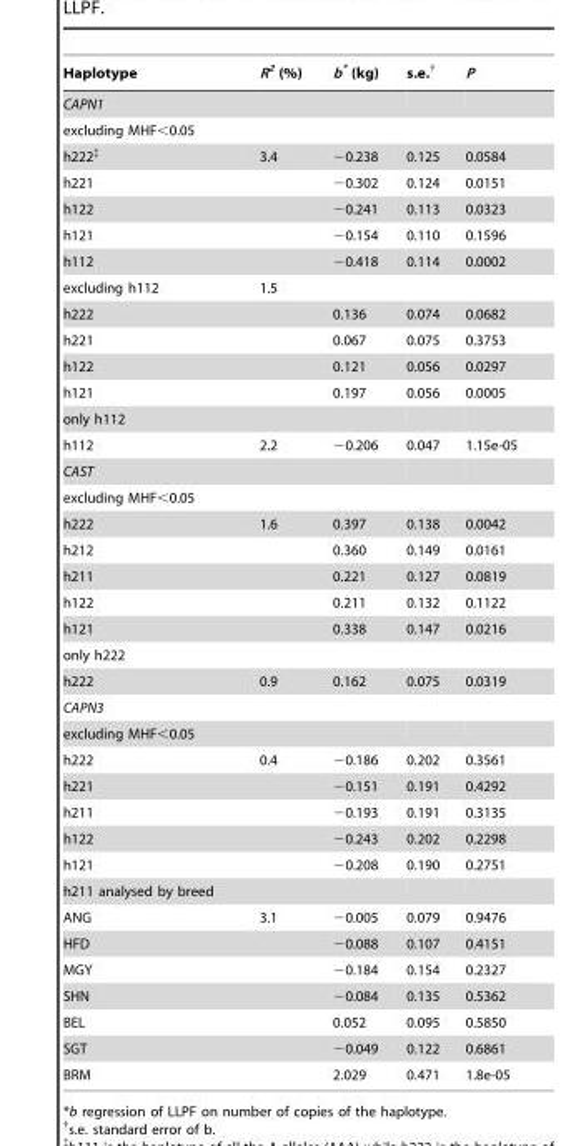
<table><thead><tr><td>Haplotype</td><td>R<sup>2</sup> (%)</td><td>b* (kg)</td><td>s.e.†</td><td>P</td></tr></thead><tbody><tr><td colspan="5">CAPN1</td></tr><tr><td colspan="5">excluding MHF&lt;0.05</td></tr><tr><td>h222‡</td><td>3.4</td><td>−0.238</td><td>0.125</td><td>0.0584</td></tr><tr><td>h221</td><td></td><td>−0.302</td><td>0.124</td><td>0.0151</td></tr><tr><td>h122</td><td></td><td>−0.241</td><td>0.113</td><td>0.0323</td></tr><tr><td>h121</td><td></td><td>−0.154</td><td>0.110</td><td>0.1596</td></tr><tr><td>h112</td><td></td><td>−0.418</td><td>0.114</td><td>0.0002</td></tr><tr><td>excluding h112</td><td>1.5</td><td></td><td></td><td></td></tr><tr><td>h222</td><td></td><td>0.136</td><td>0.074</td><td>0.0682</td></tr><tr><td>h221</td><td></td><td>0.067</td><td>0.075</td><td>0.3753</td></tr><tr><td>h122</td><td></td><td>0.121</td><td>0.056</td><td>0.0297</td></tr><tr><td>h121</td><td></td><td>0.197</td><td>0.056</td><td>0.0005</td></tr><tr><td colspan="5">only h112</td></tr><tr><td>h112</td><td>2.2</td><td>−0.206</td><td>0.047</td><td>1.15e-05</td></tr><tr><td colspan="5">CAST</td></tr><tr><td colspan="5">excluding MHF&lt;0.05</td></tr><tr><td>h222</td><td>1.6</td><td>0.397</td><td>0.138</td><td>0.0042</td></tr><tr><td>h212</td><td></td><td>0.360</td><td>0.149</td><td>0.0161</td></tr><tr><td>h211</td><td></td><td>0.221</td><td>0.127</td><td>0.0819</td></tr><tr><td>h122</td><td></td><td>0.211</td><td>0.132</td><td>0.1122</td></tr><tr><td>h121</td><td></td><td>0.338</td><td>0.147</td><td>0.0216</td></tr><tr><td colspan="5">only h222</td></tr><tr><td>h222</td><td>0.9</td><td>0.162</td><td>0.075</td><td>0.0319</td></tr><tr><td colspan="5">CAPN3</td></tr><tr><td colspan="5">excluding MHF&lt;0.05</td></tr><tr><td>h222</td><td>0.4</td><td>−0.186</td><td>0.202</td><td>0.3561</td></tr><tr><td>h221</td><td></td><td>−0.151</td><td>0.191</td><td>0.4292</td></tr><tr><td>h211</td><td></td><td>−0.193</td><td>0.191</td><td>0.3135</td></tr><tr><td>h122</td><td></td><td>−0.243</td><td>0.202</td><td>0.2298</td></tr><tr><td>h121</td><td></td><td>−0.208</td><td>0.190</td><td>0.2751</td></tr><tr><td colspan="5">h211 analysed by breed</td></tr><tr><td>ANG</td><td>3.1</td><td>−0.005</td><td>0.079</td><td>0.9476</td></tr><tr><td>HFD</td><td></td><td>−0.088</td><td>0.107</td><td>0.4151</td></tr><tr><td>MGY</td><td></td><td>−0.184</td><td>0.154</td><td>0.2327</td></tr><tr><td>SHN</td><td></td><td>−0.084</td><td>0.135</td><td>0.5362</td></tr><tr><td>BEL</td><td></td><td>0.052</td><td>0.095</td><td>0.5850</td></tr><tr><td>SGT</td><td></td><td>−0.049</td><td>0.122</td><td>0.6861</td></tr><tr><td>BRM</td><td></td><td>2.029</td><td>0.471</td><td>1.8e-05</td></tr></tbody></table>